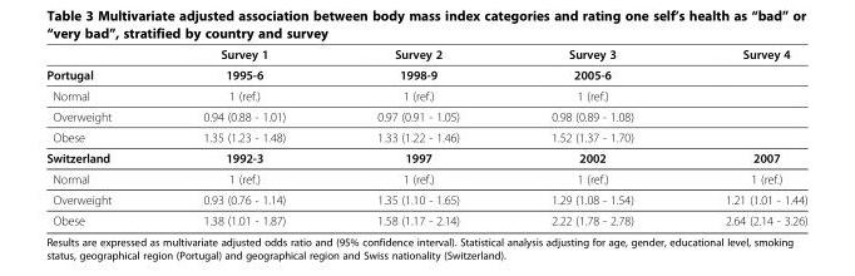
<table><thead><tr><td></td><td>Survey 1</td><td>Survey 2</td><td>Survey 3</td><td>Survey 4</td></tr></thead><tbody><tr><td>Portugal</td><td>1995-6</td><td>1998-9</td><td>2005-6</td><td></td></tr><tr><td>Normal</td><td>1 (ref.)</td><td>1 (ref.)</td><td>1 (ref.)</td><td></td></tr><tr><td>Overweight</td><td>0.94 (0.88 - 1.01)</td><td>0.97 (0.91 - 1.05)</td><td>0.98 (0.89 - 1.08)</td><td></td></tr><tr><td>Obese</td><td>1.35 (1.23 - 1.48)</td><td>1.33 (1.22 - 1.46)</td><td>1.52 (1.37 - 1.70)</td><td></td></tr><tr><td>Switzerland</td><td>1992-3</td><td>1997</td><td>2002</td><td>2007</td></tr><tr><td>Normal</td><td>1 (ref.)</td><td>1 (ref.)</td><td>1 (ref.)</td><td>1 (ref.)</td></tr><tr><td>Overweight</td><td>0.93 (0.76 - 1.14)</td><td>1.35 (1.10 - 1.65)</td><td>1.29 (1.08 - 1.54)</td><td>1.21 (1.01 - 1.44)</td></tr><tr><td>Obese</td><td>1.38 (1.01 - 1.87)</td><td>1.58 (1.17 - 2.14)</td><td>2.22 (1.78 - 2.78)</td><td>2.64 (2.14 - 3.26)</td></tr></tbody></table>